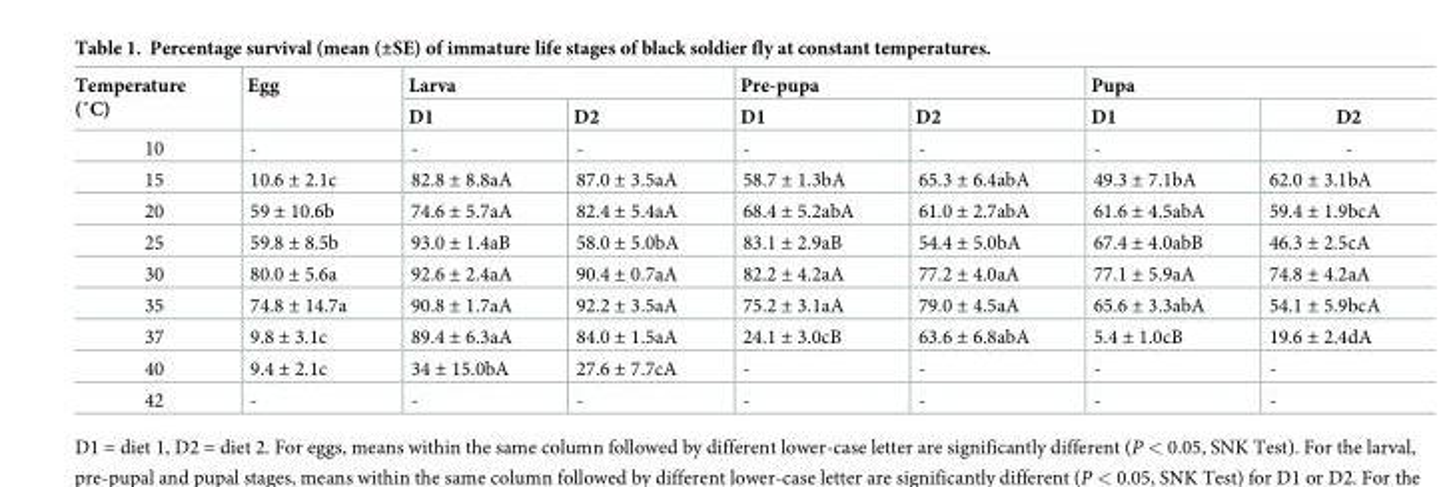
<table><thead><tr><td rowspan="2">Temperature (˚C)</td><td rowspan="2">Egg</td><td colspan="2">Larva</td><td colspan="2">Pre-pupa</td><td colspan="2">Pupa</td></tr><tr><td>D1</td><td>D2</td><td>D1</td><td>D2</td><td>D1</td><td>D2</td></tr></thead><tbody><tr><td>10</td><td>-</td><td>-</td><td>-</td><td>-</td><td>-</td><td>-</td><td>-</td></tr><tr><td>15</td><td>10.6 ± 2.1c</td><td>82.8 ± 8.8aA</td><td>87.0 ± 3.5aA</td><td>58.7 ± 1.3bA</td><td>65.3 ± 6.4abA</td><td>49.3 ± 7.1bA</td><td>62.0 ± 3.1bA</td></tr><tr><td>20</td><td>59 ± 10.6b</td><td>74.6 ± 5.7aA</td><td>82.4 ± 5.4aA</td><td>68.4 ± 5.2abA</td><td>61.0 ± 2.7abA</td><td>61.6 ± 4.5abA</td><td>59.4 ± 1.9bcA</td></tr><tr><td>25</td><td>59.8 ± 8.5b</td><td>93.0 ± 1.4aB</td><td>58.0 ± 5.0bA</td><td>83.1 ± 2.9aB</td><td>54.4 ± 5.0bA</td><td>67.4 ± 4.0abB</td><td>46.3 ± 2.5cA</td></tr><tr><td>30</td><td>80.0 ± 5.6a</td><td>92.6 ± 2.4aA</td><td>90.4 ± 0.7aA</td><td>82.2 ± 4.2aA</td><td>77.2 ± 4.0aA</td><td>77.1 ± 5.9aA</td><td>74.8 ± 4.2aA</td></tr><tr><td>35</td><td>74.8 ± 14.7a</td><td>90.8 ± 1.7aA</td><td>92.2 ± 3.5aA</td><td>75.2 ± 3.1aA</td><td>79.0 ± 4.5aA</td><td>65.6 ± 3.3abA</td><td>54.1 ± 5.9bcA</td></tr><tr><td>37</td><td>9.8 ± 3.1c</td><td>89.4 ± 6.3aA</td><td>84.0 ± 1.5aA</td><td>24.1 ± 3.0cB</td><td>63.6 ± 6.8abA</td><td>5.4 ± 1.0cB</td><td>19.6 ± 2.4dA</td></tr><tr><td>40</td><td>9.4 ± 2.1c</td><td>34 ± 15.0bA</td><td>27.6 ± 7.7cA</td><td>-</td><td>-</td><td>-</td><td>-</td></tr><tr><td>42</td><td>-</td><td>-</td><td>-</td><td>-</td><td>-</td><td>-</td><td>-</td></tr></tbody></table>